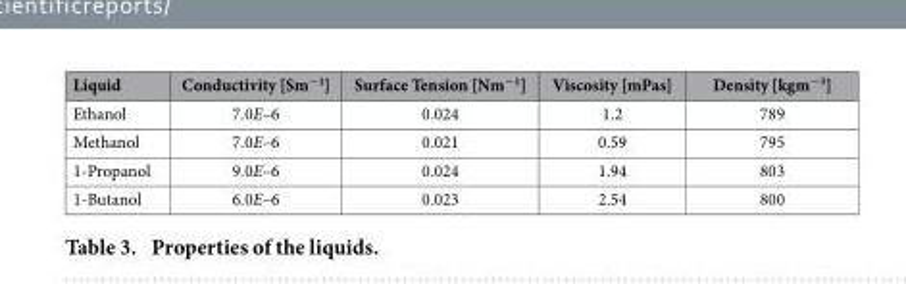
<table><thead><tr><td>Liquid</td><td>Conductivity [Sm<sup>−1</sup>]</td><td>Surface Tension [Nm<sup>−1</sup>]</td><td>Viscosity [mPas]</td><td>Density [kgm<sup>−3</sup>]</td></tr></thead><tbody><tr><td>Ethanol</td><td>7.0E–6</td><td>0.024</td><td>1.2</td><td>789</td></tr><tr><td>Methanol</td><td>7.0E–6</td><td>0.021</td><td>0.59</td><td>795</td></tr><tr><td>1-Propanol</td><td>9.0E–6</td><td>0.024</td><td>1.94</td><td>803</td></tr><tr><td>1-Butanol</td><td>6.0E–6</td><td>0.023</td><td>2.54</td><td>800</td></tr></tbody></table>